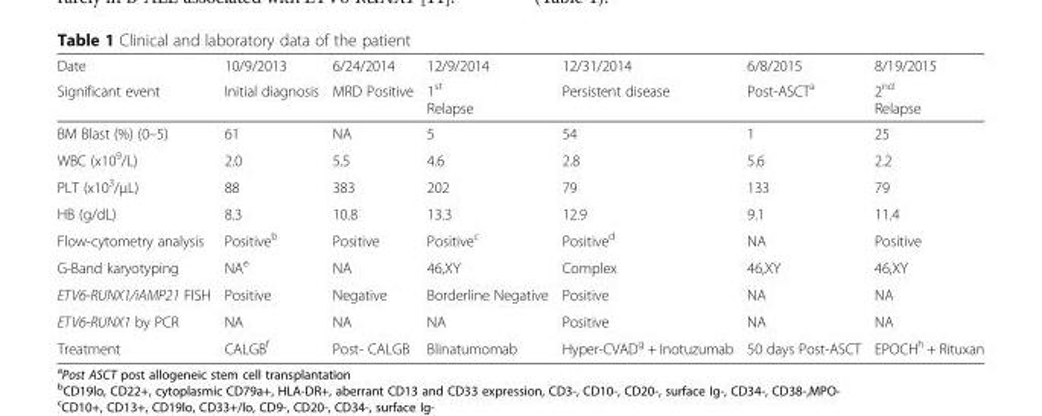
<table><thead><tr><td rowspan="2">Date Significant event</td><td rowspan="2">10/9/2013 Initial diagnosis</td><td rowspan="2">6/24/2014 MRD Positive</td><td rowspan="2">12/9/2014 1<sup>st</sup> Relapse</td><td rowspan="2">12/31/2014 Persistent disease</td><td rowspan="2">6/8/2015 Post-ASCT<sup>a</sup></td><td rowspan="2">8/19/2015 2<sup>nd</sup> Relapse</td></tr><tr></tr></thead><tbody><tr><td>BM Blast (%) (0–5)</td><td>61</td><td>NA</td><td>5</td><td>54</td><td>1</td><td>25</td></tr><tr><td>WBC (x10<sup>9</sup>/L)</td><td>2.0</td><td>5.5</td><td>4.6</td><td>2.8</td><td>5.6</td><td>2.2</td></tr><tr><td>PLT (x10<sup>3</sup>/μL)</td><td>88</td><td>383</td><td>202</td><td>79</td><td>133</td><td>79</td></tr><tr><td>HB (g/dL)</td><td>8.3</td><td>10.8</td><td>13.3</td><td>12.9</td><td>9.1</td><td>11.4</td></tr><tr><td>Flow-cytometry analysis</td><td>Positive<sup>b</sup></td><td>Positive</td><td>Positive<sup>c</sup></td><td>Positive<sup>d</sup></td><td>NA</td><td>Positive</td></tr><tr><td>G-Band karyotyping</td><td>NA<sup>e</sup></td><td>NA</td><td>46,XY</td><td>Complex</td><td>46,XY</td><td>46,XY</td></tr><tr><td>ETV6-RUNX1/iAMP21 FISH</td><td>Positive</td><td>Negative</td><td>Borderline Negative</td><td>Positive</td><td>NA</td><td>NA</td></tr><tr><td>ETV6-RUNX1 by PCR</td><td>NA</td><td>NA</td><td>NA</td><td>Positive</td><td>NA</td><td>NA</td></tr><tr><td>Treatment</td><td>CALGB<sup>f</sup></td><td>Post- CALGB</td><td>Blinatumomab</td><td>Hyper-CVAD<sup>g</sup> + Inotuzumab</td><td>50 days Post-ASCT</td><td>EPOCH<sup>h</sup> + Rituxan</td></tr></tbody></table>